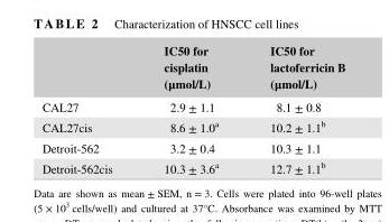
<table><thead><tr><td></td><td>IC50 for cisplatin (μmol/L)</td><td>IC50 for lactoferricin B (μmol/L)</td></tr></thead><tbody><tr><td>CAL27</td><td>2.9 ± 1.1</td><td>8.1 ± 0.8</td></tr><tr><td>CAL27cis</td><td>8.6 ± 1.0<sup>a</sup></td><td>10.2 ± 1.1b</td></tr><tr><td>Detroit- 562</td><td>3.2 ± 0.4</td><td>10.3 ± 1.1</td></tr><tr><td>Detroit- 562cis</td><td>10.3 ± 3.6<sup>a</sup></td><td>12.7 ± 1.1b</td></tr></tbody></table>